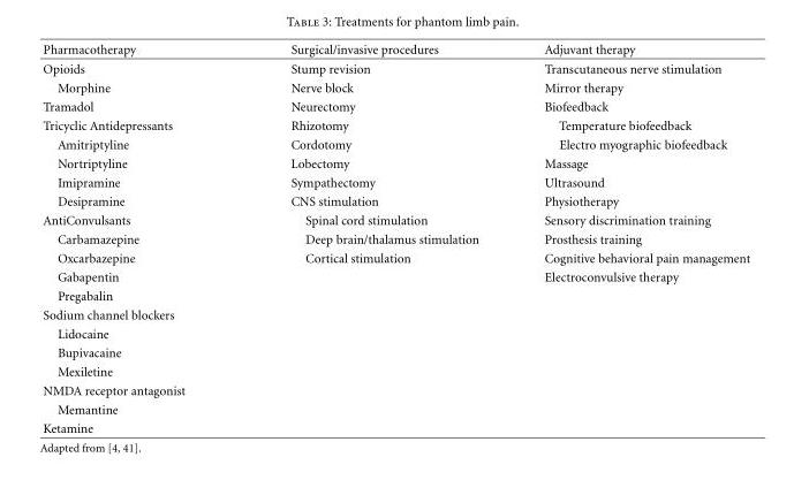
<table><thead><tr><td>Pharmacotherapy</td><td>Surgical/invasive procedures</td><td>Adjuvant therapy</td></tr></thead><tbody><tr><td>Opioids</td><td>Stump revision</td><td>Transcutaneous nerve stimulation</td></tr><tr><td>Morphine</td><td>Nerve block</td><td>Mirror therapy</td></tr><tr><td>Tramadol</td><td>Neurectomy</td><td>Biofeedback</td></tr><tr><td>Tricyclic Antidepressants</td><td>Rhizotomy</td><td>Temperature biofeedback</td></tr><tr><td>Amitriptyline</td><td>Cordotomy</td><td>Electro myographic biofeedback</td></tr><tr><td>Nortriptyline</td><td>Lobectomy</td><td>Massage</td></tr><tr><td>Imipramine</td><td>Sympathectomy</td><td>Ultrasound</td></tr><tr><td>Desipramine</td><td>CNS stimulation</td><td>Physiotherapy</td></tr><tr><td>AntiConvulsants</td><td>Spinal cord stimulation</td><td>Sensory discrimination training</td></tr><tr><td>Carbamazepine</td><td>Deep brain/thalamus stimulation</td><td>Prosthesis training</td></tr><tr><td>Oxcarbazepine</td><td>Cortical stimulation</td><td>Cognitive behavioral pain management</td></tr><tr><td>Gabapentin</td><td></td><td>Electroconvulsive therapy</td></tr><tr><td colspan="3">Pregabalin</td></tr><tr><td colspan="3">Sodium channel blockers</td></tr><tr><td colspan="3">Lidocaine</td></tr><tr><td colspan="3">Bupivacaine</td></tr><tr><td colspan="3">Mexiletine</td></tr><tr><td colspan="3">NMDA receptor antagonist</td></tr><tr><td colspan="3">Memantine</td></tr><tr><td>Ketamine</td><td></td><td></td></tr></tbody></table>